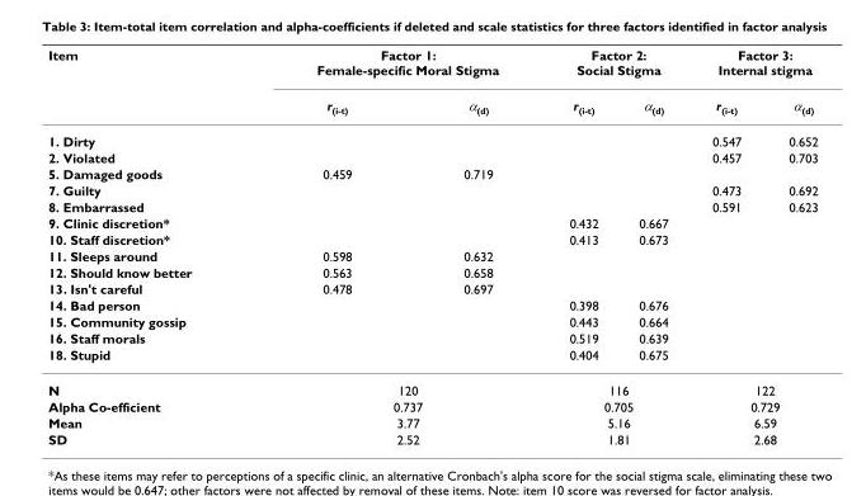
<table><thead><tr><td rowspan="2">Item</td><td colspan="2">Factor 1: Female-specific Moral Stigma</td><td colspan="2">Factor 2: Social Stigma</td><td colspan="2">Factor 3: Internal stigma</td></tr><tr><td>r<sub>(i-t)</sub></td><td>α<sub>(d)</sub></td><td>r<sub>(i-t)</sub></td><td>α<sub>(d)</sub></td><td>r<sub>(i-t)</sub></td><td>α<sub>(d)</sub></td></tr></thead><tbody><tr><td>1. Dirty</td><td></td><td></td><td></td><td></td><td>0.547</td><td>0.652</td></tr><tr><td>2. Violated</td><td></td><td></td><td></td><td></td><td>0.457</td><td>0.703</td></tr><tr><td>5. Damaged goods</td><td>0.459</td><td>0.719</td><td></td><td></td><td></td><td></td></tr><tr><td>7. Guilty</td><td></td><td></td><td></td><td></td><td>0.473</td><td>0.692</td></tr><tr><td>8. Embarrassed</td><td></td><td></td><td></td><td></td><td>0.591</td><td>0.623</td></tr><tr><td>9. Clinic discretion*</td><td></td><td></td><td>0.432</td><td>0.667</td><td></td><td></td></tr><tr><td>10. Staff discretion*</td><td></td><td></td><td>0.413</td><td>0.673</td><td></td><td></td></tr><tr><td>11. Sleeps around</td><td>0.598</td><td>0.632</td><td></td><td></td><td></td><td></td></tr><tr><td>12. Should know better</td><td>0.563</td><td>0.658</td><td></td><td></td><td></td><td></td></tr><tr><td>13. Isn&#x27;t careful</td><td>0.478</td><td>0.697</td><td></td><td></td><td></td><td></td></tr><tr><td>14. Bad person</td><td></td><td></td><td>0.398</td><td>0.676</td><td></td><td></td></tr><tr><td>15. Community gossip</td><td></td><td></td><td>0.443</td><td>0.664</td><td></td><td></td></tr><tr><td>16. Staff morals</td><td></td><td></td><td>0.519</td><td>0.639</td><td></td><td></td></tr><tr><td>18. Stupid</td><td></td><td></td><td>0.404</td><td>0.675</td><td></td><td></td></tr><tr><td>N</td><td colspan="2">120</td><td colspan="2">116</td><td colspan="2">122</td></tr><tr><td>Alpha Co-efficient</td><td colspan="2">0.737</td><td colspan="2">0.705</td><td colspan="2">0.729</td></tr><tr><td>Mean</td><td colspan="2">3.77</td><td colspan="2">5.16</td><td colspan="2">6.59</td></tr><tr><td>SD</td><td colspan="2">2.52</td><td colspan="2">1.81</td><td colspan="2">2.68</td></tr></tbody></table>